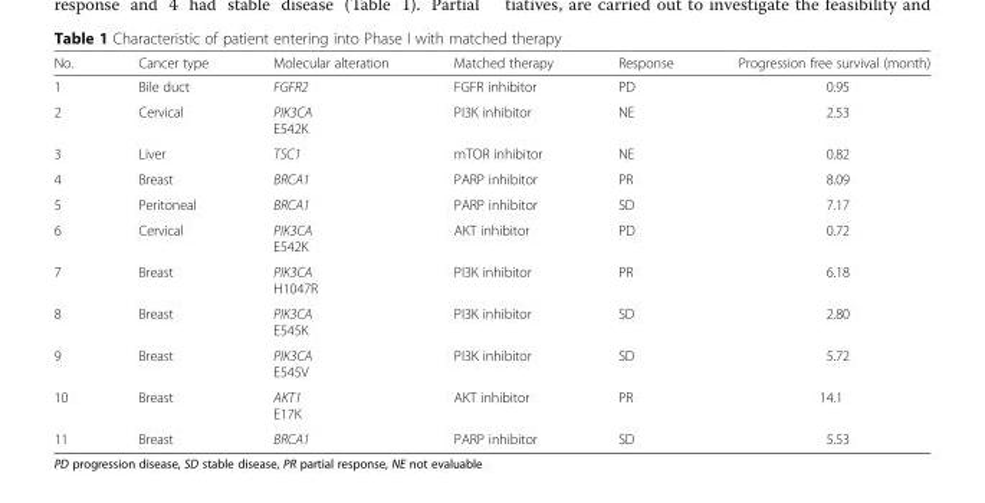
<table><thead><tr><td>No.</td><td>Cancer type</td><td>Molecular alteration</td><td>Matched therapy</td><td>Response</td><td>Progression free survival (month)</td></tr></thead><tbody><tr><td>1</td><td>Bile duct</td><td>FGFR2</td><td>FGFR inhibitor</td><td>PD</td><td>0.95</td></tr><tr><td>2</td><td>Cervical</td><td>PIK3CA E542K</td><td>PI3K inhibitor</td><td>NE</td><td>2.53</td></tr><tr><td>3</td><td>Liver</td><td>TSC1</td><td>mTOR inhibitor</td><td>NE</td><td>0.82</td></tr><tr><td>4</td><td>Breast</td><td>BRCA1</td><td>PARP inhibitor</td><td>PR</td><td>8.09</td></tr><tr><td>5</td><td>Peritoneal</td><td>BRCA1</td><td>PARP inhibitor</td><td>SD</td><td>7.17</td></tr><tr><td>6</td><td>Cervical</td><td>PIK3CA E542K</td><td>AKT inhibitor</td><td>PD</td><td>0.72</td></tr><tr><td>7</td><td>Breast</td><td>PIK3CA H1047R</td><td>PI3K inhibitor</td><td>PR</td><td>6.18</td></tr><tr><td>8</td><td>Breast</td><td>PIK3CA E545K</td><td>PI3K inhibitor</td><td>SD</td><td>2.80</td></tr><tr><td>9</td><td>Breast</td><td>PIK3CA E545V</td><td>PI3K inhibitor</td><td>SD</td><td>5.72</td></tr><tr><td>10</td><td>Breast</td><td>AKT1 E17K</td><td>AKT inhibitor</td><td>PR</td><td>14.1</td></tr><tr><td>11</td><td>Breast</td><td>BRCA1</td><td>PARP inhibitor</td><td>SD</td><td>5.53</td></tr></tbody></table>